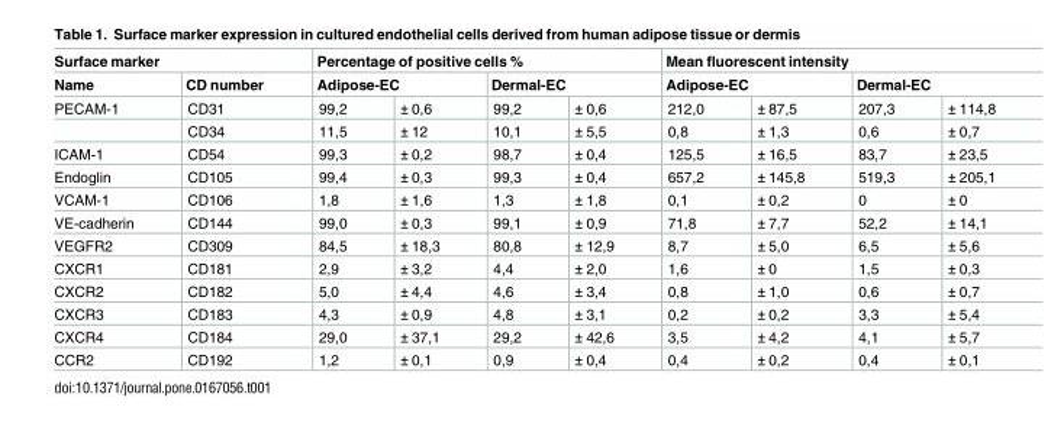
<table><thead><tr><td colspan="2">Surface marker</td><td colspan="4">Percentage of positive cells %</td><td colspan="4">Mean fluorescent intensity</td></tr><tr><td rowspan="2">Name PECAM-1</td><td rowspan="2">CD number CD31</td><td colspan="2">Adipose-EC</td><td colspan="2">Dermal-EC</td><td colspan="2">Adipose-EC</td><td colspan="2">Dermal-EC</td></tr><tr><td>99,2</td><td>± 0,6</td><td>99,2</td><td>± 0,6</td><td>212,0</td><td>± 87,5</td><td>207,3</td><td>± 114,8</td></tr></thead><tbody><tr><td></td><td>CD34</td><td>11,5</td><td>± 12</td><td>10,1</td><td>± 5,5</td><td>0,8</td><td>± 1,3</td><td>0,6</td><td>± 0,7</td></tr><tr><td>ICAM-1</td><td>CD54</td><td>99,3</td><td>± 0,2</td><td>98,7</td><td>± 0,4</td><td>125,5</td><td>± 16,5</td><td>83,7</td><td>± 23,5</td></tr><tr><td>Endoglin</td><td>CD105</td><td>99,4</td><td>± 0,3</td><td>99,3</td><td>± 0,4</td><td>657,2</td><td>± 145,8</td><td>519,3</td><td>± 205,1</td></tr><tr><td>VCAM-1</td><td>CD106</td><td>1,8</td><td>± 1,6</td><td>1,3</td><td>± 1,8</td><td>0,1</td><td>± 0,2</td><td>0</td><td>± 0</td></tr><tr><td>VE-cadherin</td><td>CD144</td><td>99,0</td><td>± 0,3</td><td>99,1</td><td>± 0,9</td><td>71,8</td><td>± 7,7</td><td>52,2</td><td>± 14,1</td></tr><tr><td>VEGFR2</td><td>CD309</td><td>84,5</td><td>± 18,3</td><td>80,8</td><td>± 12,9</td><td>8,7</td><td>± 5,0</td><td>6,5</td><td>± 5,6</td></tr><tr><td>CXCR1</td><td>CD181</td><td>2,9</td><td>± 3,2</td><td>4,4</td><td>± 2,0</td><td>1,6</td><td>± 0</td><td>1,5</td><td>± 0,3</td></tr><tr><td>CXCR2</td><td>CD182</td><td>5,0</td><td>± 4,4</td><td>4,6</td><td>± 3,4</td><td>0,8</td><td>± 1,0</td><td>0,6</td><td>± 0,7</td></tr><tr><td>CXCR3</td><td>CD183</td><td>4,3</td><td>± 0,9</td><td>4,8</td><td>± 3,1</td><td>0,2</td><td>± 0,2</td><td>3,3</td><td>± 5,4</td></tr><tr><td>CXCR4</td><td>CD184</td><td>29,0</td><td>± 37,1</td><td>29,2</td><td>± 42,6</td><td>3,5</td><td>± 4,2</td><td>4,1</td><td>± 5,7</td></tr><tr><td>CCR2</td><td>CD192</td><td>1,2</td><td>± 0,1</td><td>0,9</td><td>± 0,4</td><td>0,4</td><td>± 0,2</td><td>0,4</td><td>± 0,1</td></tr></tbody></table>